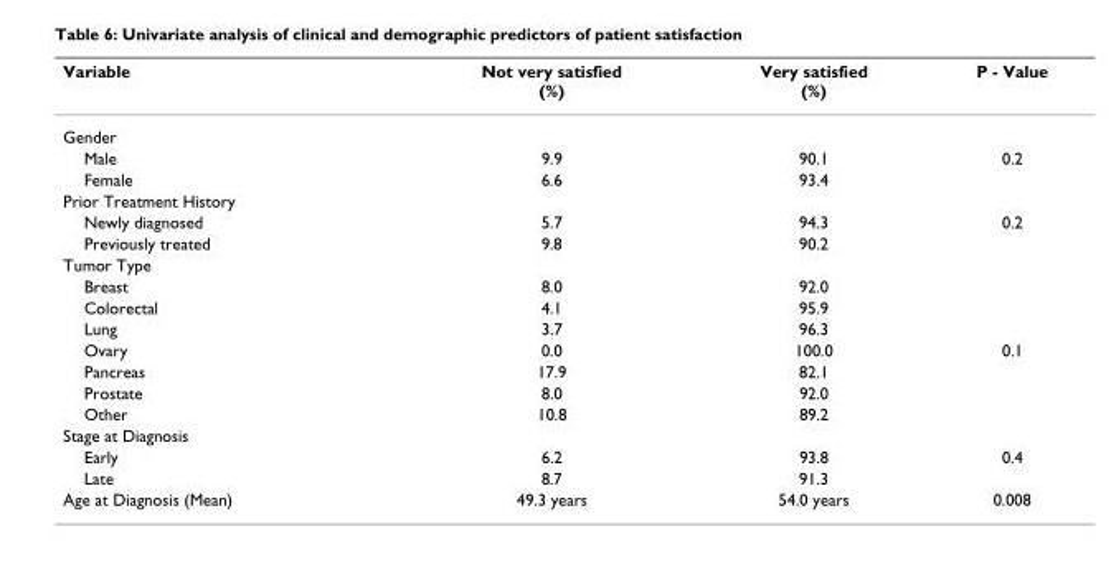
<table><thead><tr><td>Variable</td><td>Not very satisfied (%)</td><td>Very satisfied (%)</td><td>P - Value</td></tr></thead><tbody><tr><td colspan="4">Gender</td></tr><tr><td>Male</td><td>9.9</td><td>90.1</td><td>0.2</td></tr><tr><td>Female</td><td>6.6</td><td>93.4</td><td></td></tr><tr><td colspan="4">Prior Treatment History</td></tr><tr><td>Newly diagnosed</td><td>5.7</td><td>94.3</td><td>0.2</td></tr><tr><td>Previously treated</td><td>9.8</td><td>90.2</td><td></td></tr><tr><td colspan="4">Tumor Type</td></tr><tr><td>Breast</td><td>8.0</td><td>92.0</td><td></td></tr><tr><td>Colorectal</td><td>4.1</td><td>95.9</td><td></td></tr><tr><td>Lung</td><td>3.7</td><td>96.3</td><td></td></tr><tr><td>Ovary</td><td>0.0</td><td>100.0</td><td>0.1</td></tr><tr><td>Pancreas</td><td>17.9</td><td>82.1</td><td></td></tr><tr><td>Prostate</td><td>8.0</td><td>92.0</td><td></td></tr><tr><td>Other</td><td>10.8</td><td>89.2</td><td></td></tr><tr><td colspan="4">Stage at Diagnosis</td></tr><tr><td>Early</td><td>6.2</td><td>93.8</td><td>0.4</td></tr><tr><td>Late</td><td>8.7</td><td>91.3</td><td></td></tr><tr><td>Age at Diagnosis (Mean)</td><td>49.3 years</td><td>54.0 years</td><td>0.008</td></tr></tbody></table>